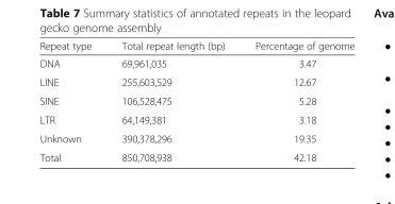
<table><thead><tr><td>Repeat type</td><td>Total repeat length (bp)</td><td>Percentage of genome</td></tr></thead><tbody><tr><td>DNA</td><td>69,961,035</td><td>3.47</td></tr><tr><td>LINE</td><td>255,603,529</td><td>12.67</td></tr><tr><td>SINE</td><td>106,528,475</td><td>5.28</td></tr><tr><td>LTR</td><td>64,149,381</td><td>3.18</td></tr><tr><td>Unknown</td><td>390,378,296</td><td>19.35</td></tr><tr><td>Total</td><td>850,708,938</td><td>42.18</td></tr></tbody></table>